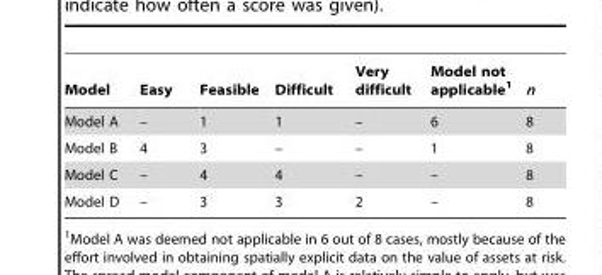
<table><thead><tr><td>Model</td><td>Easy</td><td>Feasible</td><td>Difficult</td><td>Very difficult</td><td>Model not applicable<sup>1</sup></td><td>n</td></tr></thead><tbody><tr><td>Model A</td><td>–</td><td>1</td><td>1</td><td>–</td><td>6</td><td>8</td></tr><tr><td>Model B</td><td>4</td><td>3</td><td>–</td><td>–</td><td>1</td><td>8</td></tr><tr><td>Model C</td><td>–</td><td>4</td><td>4</td><td>–</td><td>–</td><td>8</td></tr><tr><td>Model D</td><td>–</td><td>3</td><td>3</td><td>2</td><td>–</td><td>8</td></tr></tbody></table>